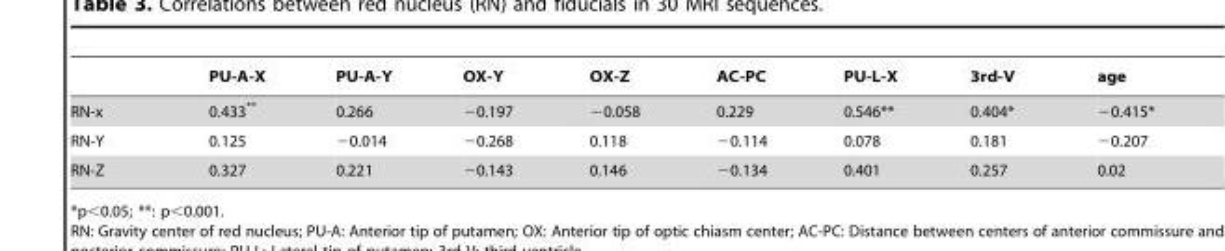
<table><thead><tr><td></td><td>PU-A-X</td><td>PU-A-Y</td><td>OX-Y</td><td>OX-Z</td><td>AC-PC</td><td>PU-L-X</td><td>3rd-V</td><td>age</td></tr></thead><tbody><tr><td>RN-x</td><td>0.433**</td><td>0.266</td><td>−0.197</td><td>−0.058</td><td>0.229</td><td>0.546**</td><td>0.404*</td><td>−0.415*</td></tr><tr><td>RN-Y</td><td>0.125</td><td>−0.014</td><td>−0.268</td><td>0.118</td><td>−0.114</td><td>0.078</td><td>0.181</td><td>−0.207</td></tr><tr><td>RN-Z</td><td>0.327</td><td>0.221</td><td>−0.143</td><td>0.146</td><td>−0.134</td><td>0.401</td><td>0.257</td><td>0.02</td></tr></tbody></table>